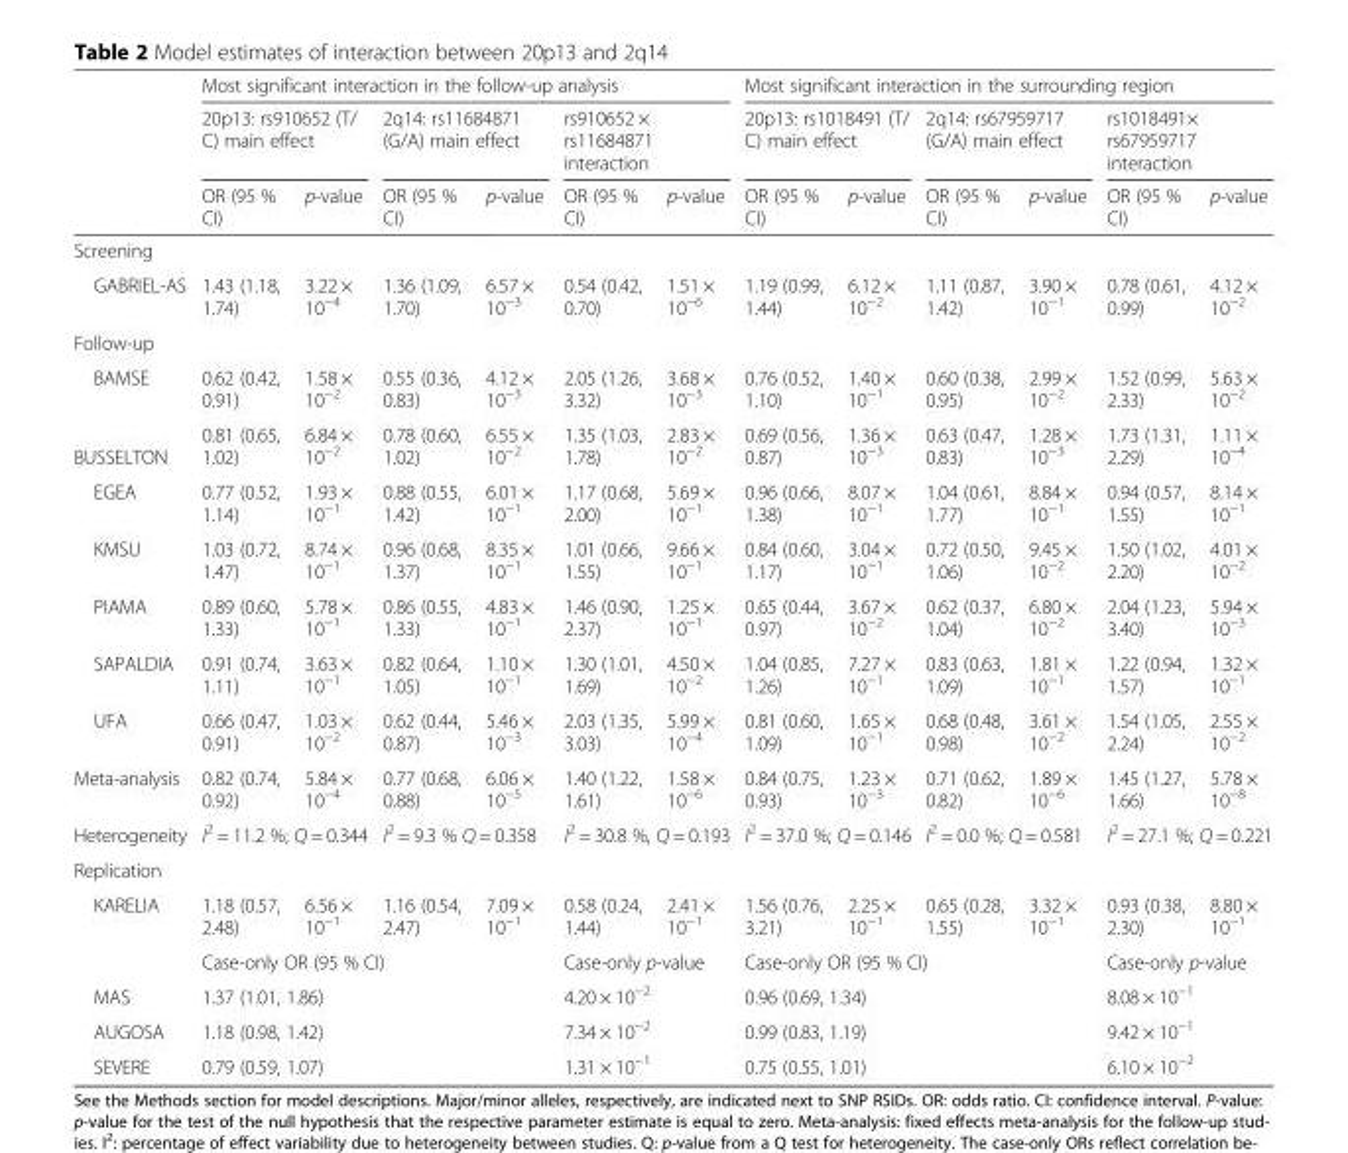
<table><thead><tr><td rowspan="3"></td><td colspan="6">Most significant interaction in the follow-up analysis</td><td colspan="6">Most significant interaction in the surrounding region</td></tr><tr><td colspan="2">20p13: rs910652 (T/ C) main effect</td><td colspan="2">2q14: rs11684871 (G/A) main effect</td><td colspan="2">rs910652 × rs11684871 interaction</td><td colspan="2">20p13: rs1018491 (T/ C) main effect</td><td colspan="2">2q14: rs67959717 (G/A) main effect</td><td colspan="2">rs1018491× rs67959717 interaction</td></tr><tr><td>OR (95 % CI)</td><td>p-value</td><td>OR (95 % CI)</td><td>p-value</td><td>OR (95 % CI)</td><td>p-value</td><td>OR (95 % CI)</td><td>p-value</td><td>OR (95 % CI)</td><td>p-value</td><td>OR (95 % CI)</td><td>p-value</td></tr></thead><tbody><tr><td colspan="13">Screening</td></tr><tr><td>GABRIEL-AS</td><td>1.43 (1.18, 1.74)</td><td>3.22 × 10<sup>−4</sup></td><td>1.36 (1.09, 1.70)</td><td>6.57 × 10<sup>−3</sup></td><td>0.54 (0.42, 0.70)</td><td>1.51 × 10<sup>−6</sup></td><td>1.19 (0.99, 1.44)</td><td>6.12 × 10<sup>−2</sup></td><td>1.11 (0.87, 1.42)</td><td>3.90 × 10<sup>−1</sup></td><td>0.78 (0.61, 0.99)</td><td>4.12 × 10<sup>−2</sup></td></tr><tr><td colspan="13">Follow-up</td></tr><tr><td>BAMSE</td><td>0.62 (0.42, 0.91)</td><td>1.58 × 10<sup>−2</sup></td><td>0.55 (0.36, 0.83)</td><td>4.12 × 10<sup>−3</sup></td><td>2.05 (1.26, 3.32)</td><td>3.68 × 10<sup>−3</sup></td><td>0.76 (0.52, 1.10)</td><td>1.40 × 10<sup>−1</sup></td><td>0.60 (0.38, 0.95)</td><td>2.99 × 10<sup>−2</sup></td><td>1.52 (0.99, 2.33)</td><td>5.63 × 10<sup>−2</sup></td></tr><tr><td>BUSSELTON</td><td>0.81 (0.65, 1.02)</td><td>6.84 × 10<sup>−2</sup></td><td>0.78 (0.60, 1.02)</td><td>6.55 × 10<sup>−2</sup></td><td>1.35 (1.03, 1.78)</td><td>2.83 × 10<sup>−2</sup></td><td>0.69 (0.56, 0.87)</td><td>1.36 × 10<sup>−3</sup></td><td>0.63 (0.47, 0.83)</td><td>1.28 × 10<sup>−3</sup></td><td>1.73 (1.31, 2.29)</td><td>1.11 × 10<sup>−4</sup></td></tr><tr><td>EGEA</td><td>0.77 (0.52, 1.14)</td><td>1.93 × 10<sup>−1</sup></td><td>0.88 (0.55, 1.42)</td><td>6.01 × 10<sup>−1</sup></td><td>1.17 (0.68, 2.00)</td><td>5.69 × 10<sup>−1</sup></td><td>0.96 (0.66, 1.38)</td><td>8.07 × 10<sup>−1</sup></td><td>1.04 (0.61, 1.77)</td><td>8.84 × 10<sup>−1</sup></td><td>0.94 (0.57, 1.55)</td><td>8.14 × 10<sup>−1</sup></td></tr><tr><td>KMSU</td><td>1.03 (0.72, 1.47)</td><td>8.74 × 10<sup>−1</sup></td><td>0.96 (0.68, 1.37)</td><td>8.35 × 10<sup>−1</sup></td><td>1.01 (0.66, 1.55)</td><td>9.66 × 10<sup>−1</sup></td><td>0.84 (0.60, 1.17)</td><td>3.04 × 10<sup>−1</sup></td><td>0.72 (0.50, 1.06)</td><td>9.45 × 10<sup>−2</sup></td><td>1.50 (1.02, 2.20)</td><td>4.01 × 10<sup>−2</sup></td></tr><tr><td>PIAMA</td><td>0.89 (0.60, 1.33)</td><td>5.78 × 10<sup>−1</sup></td><td>0.86 (0.55, 1.33)</td><td>4.83 × 10<sup>−1</sup></td><td>1.46 (0.90, 2.37)</td><td>1.25 × 10<sup>−1</sup></td><td>0.65 (0.44, 0.97)</td><td>3.67 × 10<sup>−2</sup></td><td>0.62 (0.37, 1.04)</td><td>6.80 × 10<sup>−2</sup></td><td>2.04 (1.23, 3.40)</td><td>5.94 × 10<sup>−3</sup></td></tr><tr><td>SAPALDIA</td><td>0.91 (0.74, 1.11)</td><td>3.63 × 10<sup>−1</sup></td><td>0.82 (0.64, 1.05)</td><td>1.10 × 10<sup>−1</sup></td><td>1.30 (1.01, 1.69)</td><td>4.50 × 10<sup>−2</sup></td><td>1.04 (0.85, 1.26)</td><td>7.27 × 10<sup>−1</sup></td><td>0.83 (0.63, 1.09)</td><td>1.81 × 10<sup>−1</sup></td><td>1.22 (0.94, 1.57)</td><td>1.32 × 10<sup>−1</sup></td></tr><tr><td>UFA</td><td>0.66 (0.47, 0.91)</td><td>1.03 × 10<sup>−2</sup></td><td>0.62 (0.44, 0.87)</td><td>5.46 × 10<sup>−3</sup></td><td>2.03 (1.35, 3.03)</td><td>5.99 × 10<sup>−4</sup></td><td>0.81 (0.60, 1.09)</td><td>1.65 × 10<sup>−1</sup></td><td>0.68 (0.48, 0.98)</td><td>3.61 × 10<sup>−2</sup></td><td>1.54 (1.05, 2.24)</td><td>2.55 × 10<sup>−2</sup></td></tr><tr><td>Meta-analysis</td><td>0.82 (0.74, 0.92)</td><td>5.84 × 10<sup>−4</sup></td><td>0.77 (0.68, 0.88)</td><td>6.06 × 10<sup>−5</sup></td><td>1.40 (1.22, 1.61)</td><td>1.58 × 10<sup>−6</sup></td><td>0.84 (0.75, 0.93)</td><td>1.23 × 10<sup>−3</sup></td><td>0.71 (0.62, 0.82)</td><td>1.89 × 10<sup>−6</sup></td><td>1.45 (1.27, 1.66)</td><td>5.78 × 10<sup>−8</sup></td></tr><tr><td>Heterogeneity</td><td colspan="2">I<sup>2</sup> = 11.2 %; Q = 0.344</td><td colspan="2">I<sup>2</sup> = 9.3 % Q = 0.358</td><td colspan="2">I<sup>2</sup> = 30.8 %, Q = 0.193</td><td colspan="2">I<sup>2</sup> = 37.0 %; Q = 0.146</td><td colspan="2">I<sup>2</sup> = 0.0 %; Q = 0.581</td><td colspan="2">I<sup>2</sup> = 27.1 %; Q = 0.221</td></tr><tr><td colspan="13">Replication</td></tr><tr><td rowspan="2">KARELIA</td><td>1.18 (0.57, 2.48)</td><td>6.56 × 10<sup>−1</sup></td><td>1.16 (0.54, 2.47)</td><td>7.09 × 10<sup>−1</sup></td><td>0.58 (0.24, 1.44)</td><td>2.41 × 10<sup>−1</sup></td><td>1.56 (0.76, 3.21)</td><td>2.25 × 10<sup>−1</sup></td><td>0.65 (0.28, 1.55)</td><td>3.32 × 10<sup>−1</sup></td><td>0.93 (0.38, 2.30)</td><td>8.80 × 10<sup>−1</sup></td></tr><tr><td colspan="4">Case-only OR (95 % CI)</td><td colspan="2">Case-only p-value</td><td colspan="4">Case-only OR (95 % CI)</td><td colspan="2">Case-only p-value</td></tr><tr><td>MAS</td><td colspan="4">1.37 (1.01, 1.86)</td><td colspan="2">4.20 × 10<sup>−2</sup></td><td colspan="4">0.96 (0.69, 1.34)</td><td colspan="2">8.08 × 10<sup>−1</sup></td></tr><tr><td>AUGOSA</td><td colspan="4">1.18 (0.98, 1.42)</td><td colspan="2">7.34 × 10<sup>−2</sup></td><td colspan="4">0.99 (0.83, 1.19)</td><td colspan="2">9.42 × 10<sup>−1</sup></td></tr><tr><td>SEVERE</td><td colspan="4">0.79 (0.59, 1.07)</td><td colspan="2">1.31 × 10<sup>−1</sup></td><td colspan="4">0.75 (0.55, 1.01)</td><td colspan="2">6.10 × 10<sup>−2</sup></td></tr></tbody></table>